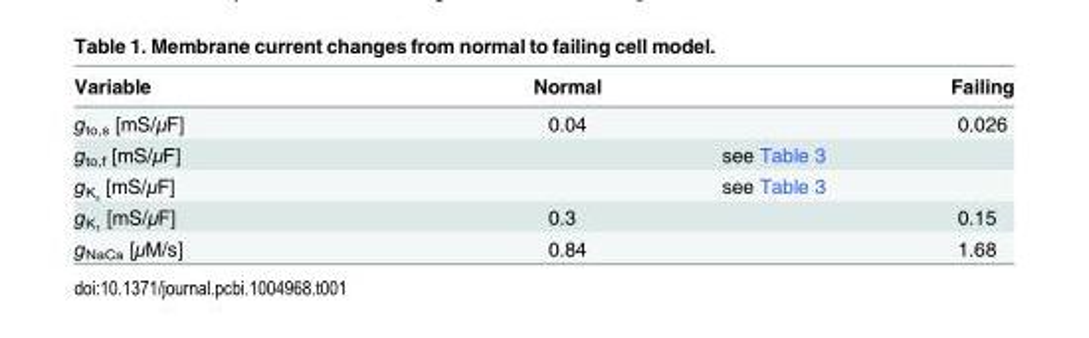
<table><thead><tr><td>Variable</td><td>Normal</td><td>Failing</td></tr></thead><tbody><tr><td>g<sub>to,s</sub> [mS/μF]</td><td>0.04</td><td>0.026</td></tr><tr><td>g<sub>to,f</sub> [mS/μF]</td><td colspan="2">see Table 3</td></tr><tr><td>gKs [mS/μF]</td><td colspan="2">see Table 3</td></tr><tr><td>gK1 [mS/μF]</td><td>0.3</td><td>0.15</td></tr><tr><td>g<sub>NaCa</sub> [μM/s]</td><td>0.84</td><td>1.68</td></tr></tbody></table>